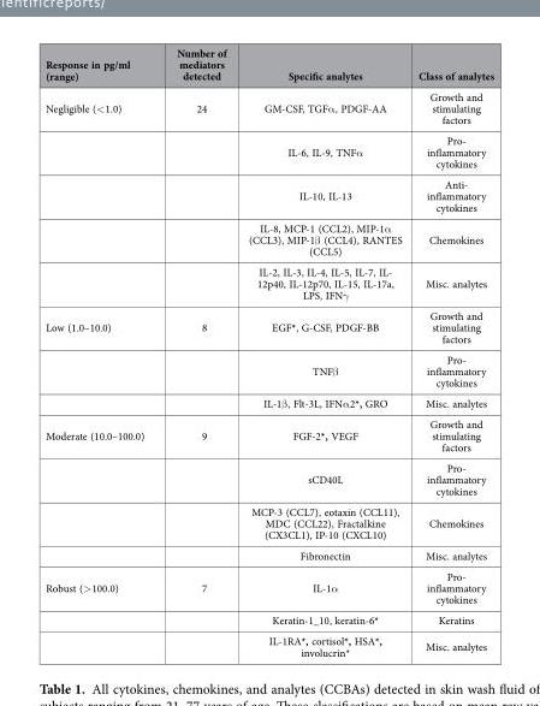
<table><thead><tr><td>Response in pg/ml (range)</td><td>Number of mediators detected</td><td>Specific analytes</td><td>Class of analytes</td></tr></thead><tbody><tr><td rowspan="5">Negligible (&lt; 1.0)</td><td>24</td><td>GM-CSF, TGFα , PDGF-AA</td><td>Growth and stimulating factors</td></tr><tr><td></td><td>IL-6, IL-9, TNFα</td><td>Pro- inflammatory cytokines</td></tr><tr><td></td><td>IL-10, IL-13</td><td>Anti- inflammatory cytokines</td></tr><tr><td></td><td>IL-8, MCP-1 (CCL2), MIP-1α (CCL3), MIP-1β (CCL4), RANTES (CCL5)</td><td>Chemokines</td></tr><tr><td></td><td>IL-2, IL-3, IL-4, IL-5, IL-7, IL- 12p40, IL-12p70, IL-15, IL-17a, LPS, IFNγ</td><td>Misc. analytes</td></tr><tr><td rowspan="3">Low (1.0–10.0)</td><td>8</td><td>EGF*, G-CSF, PDGF-BB</td><td>Growth and stimulating factors</td></tr><tr><td></td><td>TNFβ</td><td>Pro- inflammatory cytokines</td></tr><tr><td></td><td>IL-1β , Flt-3L, IFNα 2*, GRO</td><td>Misc. analytes</td></tr><tr><td rowspan="4">Moderate (10.0–100.0)</td><td>9</td><td>FGF-2*, VEGF</td><td>Growth and stimulating factors</td></tr><tr><td></td><td>sCD40L</td><td>Pro- inflammatory cytokines</td></tr><tr><td></td><td>MCP-3 (CCL7), eotaxin (CCL11), MDC (CCL22), Fractalkine (CX3CL1), IP-10 (CXCL10)</td><td>Chemokines</td></tr><tr><td></td><td>Fibronectin</td><td>Misc. analytes</td></tr><tr><td rowspan="3">Robust (&gt; 100.0)</td><td>7</td><td>IL-1α</td><td>Pro- inflammatory cytokines</td></tr><tr><td></td><td>Keratin-1_10, keratin-6*</td><td>Keratins</td></tr><tr><td></td><td>IL-1RA*, cortisol*, HSA*, involucrin*</td><td>Misc. analytes</td></tr></tbody></table>